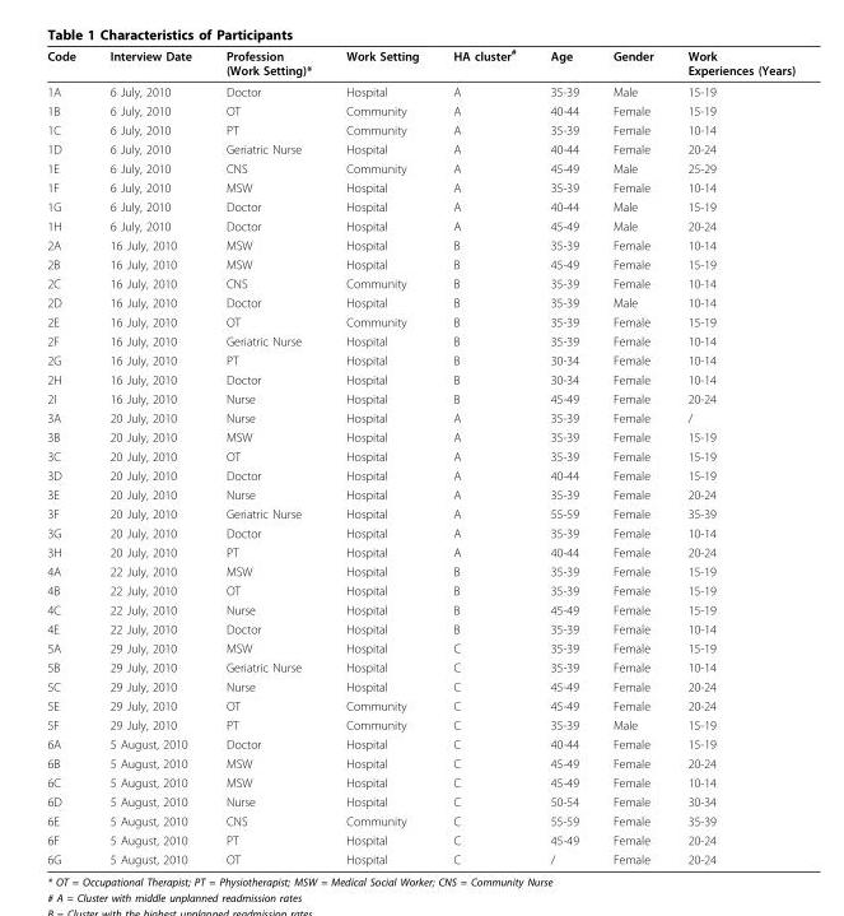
<table><thead><tr><td>Code</td><td>Interview Date</td><td>Profession (Work Setting)*</td><td>Work Setting</td><td>HA cluster<sup>#</sup></td><td>Age</td><td>Gender</td><td>Work Experiences (Years)</td></tr></thead><tbody><tr><td>1A</td><td>6 July, 2010</td><td>Doctor</td><td>Hospital</td><td>A</td><td>35-39</td><td>Male</td><td>15-19</td></tr><tr><td>1B</td><td>6 July, 2010</td><td>OT</td><td>Community</td><td>A</td><td>40-44</td><td>Female</td><td>15-19</td></tr><tr><td>1C</td><td>6 July, 2010</td><td>PT</td><td>Community</td><td>A</td><td>35-39</td><td>Female</td><td>10-14</td></tr><tr><td>1D</td><td>6 July, 2010</td><td>Geriatric Nurse</td><td>Hospital</td><td>A</td><td>40-44</td><td>Female</td><td>20-24</td></tr><tr><td>1E</td><td>6 July, 2010</td><td>CNS</td><td>Community</td><td>A</td><td>45-49</td><td>Male</td><td>25-29</td></tr><tr><td>1F</td><td>6 July, 2010</td><td>MSW</td><td>Hospital</td><td>A</td><td>35-39</td><td>Female</td><td>10-14</td></tr><tr><td>1G</td><td>6 July, 2010</td><td>Doctor</td><td>Hospital</td><td>A</td><td>40-44</td><td>Male</td><td>15-19</td></tr><tr><td>1H</td><td>6 July, 2010</td><td>Doctor</td><td>Hospital</td><td>A</td><td>45-49</td><td>Male</td><td>20-24</td></tr><tr><td>2A</td><td>16 July, 2010</td><td>MSW</td><td>Hospital</td><td>B</td><td>35-39</td><td>Female</td><td>10-14</td></tr><tr><td>2B</td><td>16 July, 2010</td><td>MSW</td><td>Hospital</td><td>B</td><td>45-49</td><td>Female</td><td>15-19</td></tr><tr><td>2C</td><td>16 July, 2010</td><td>CNS</td><td>Community</td><td>B</td><td>35-39</td><td>Female</td><td>10-14</td></tr><tr><td>2D</td><td>16 July, 2010</td><td>Doctor</td><td>Hospital</td><td>B</td><td>35-39</td><td>Male</td><td>10-14</td></tr><tr><td>2E</td><td>16 July, 2010</td><td>OT</td><td>Community</td><td>B</td><td>35-39</td><td>Female</td><td>15-19</td></tr><tr><td>2F</td><td>16 July, 2010</td><td>Geriatric Nurse</td><td>Hospital</td><td>B</td><td>35-39</td><td>Female</td><td>10-14</td></tr><tr><td>2G</td><td>16 July, 2010</td><td>PT</td><td>Hospital</td><td>B</td><td>30-34</td><td>Female</td><td>10-14</td></tr><tr><td>2H</td><td>16 July, 2010</td><td>Doctor</td><td>Hospital</td><td>B</td><td>30-34</td><td>Female</td><td>10-14</td></tr><tr><td>2I</td><td>16 July, 2010</td><td>Nurse</td><td>Hospital</td><td>B</td><td>45-49</td><td>Female</td><td>20-24</td></tr><tr><td>3A</td><td>20 July, 2010</td><td>Nurse</td><td>Hospital</td><td>A</td><td>35-39</td><td>Female</td><td>/</td></tr><tr><td>3B</td><td>20 July, 2010</td><td>MSW</td><td>Hospital</td><td>A</td><td>35-39</td><td>Female</td><td>15-19</td></tr><tr><td>3C</td><td>20 July, 2010</td><td>OT</td><td>Hospital</td><td>A</td><td>35-39</td><td>Female</td><td>15-19</td></tr><tr><td>3D</td><td>20 July, 2010</td><td>Doctor</td><td>Hospital</td><td>A</td><td>40-44</td><td>Female</td><td>15-19</td></tr><tr><td>3E</td><td>20 July, 2010</td><td>Nurse</td><td>Hospital</td><td>A</td><td>35-39</td><td>Female</td><td>20-24</td></tr><tr><td>3F</td><td>20 July, 2010</td><td>Geriatric Nurse</td><td>Hospital</td><td>A</td><td>55-59</td><td>Female</td><td>35-39</td></tr><tr><td>3G</td><td>20 July, 2010</td><td>Doctor</td><td>Hospital</td><td>A</td><td>35-39</td><td>Female</td><td>10-14</td></tr><tr><td>3H</td><td>20 July, 2010</td><td>PT</td><td>Hospital</td><td>A</td><td>40-44</td><td>Female</td><td>20-24</td></tr><tr><td>4A</td><td>22 July, 2010</td><td>MSW</td><td>Hospital</td><td>B</td><td>35-39</td><td>Female</td><td>15-19</td></tr><tr><td>4B</td><td>22 July, 2010</td><td>OT</td><td>Hospital</td><td>B</td><td>35-39</td><td>Female</td><td>15-19</td></tr><tr><td>4C</td><td>22 July, 2010</td><td>Nurse</td><td>Hospital</td><td>B</td><td>45-49</td><td>Female</td><td>15-19</td></tr><tr><td>4E</td><td>22 July, 2010</td><td>Doctor</td><td>Hospital</td><td>B</td><td>35-39</td><td>Female</td><td>10-14</td></tr><tr><td>5A</td><td>29 July, 2010</td><td>MSW</td><td>Hospital</td><td>C</td><td>35-39</td><td>Female</td><td>15-19</td></tr><tr><td>5B</td><td>29 July, 2010</td><td>Geriatric Nurse</td><td>Hospital</td><td>C</td><td>35-39</td><td>Female</td><td>10-14</td></tr><tr><td>5C</td><td>29 July, 2010</td><td>Nurse</td><td>Hospital</td><td>C</td><td>45-49</td><td>Female</td><td>20-24</td></tr><tr><td>5E</td><td>29 July, 2010</td><td>OT</td><td>Community</td><td>C</td><td>45-49</td><td>Female</td><td>20-24</td></tr><tr><td>5F</td><td>29 July, 2010</td><td>PT</td><td>Community</td><td>C</td><td>35-39</td><td>Male</td><td>15-19</td></tr><tr><td>6A</td><td>5 August, 2010</td><td>Doctor</td><td>Hospital</td><td>C</td><td>40-44</td><td>Female</td><td>15-19</td></tr><tr><td>6B</td><td>5 August, 2010</td><td>MSW</td><td>Hospital</td><td>C</td><td>45-49</td><td>Female</td><td>20-24</td></tr><tr><td>6C</td><td>5 August, 2010</td><td>MSW</td><td>Hospital</td><td>C</td><td>45-49</td><td>Female</td><td>10-14</td></tr><tr><td>6D</td><td>5 August, 2010</td><td>Nurse</td><td>Hospital</td><td>C</td><td>50-54</td><td>Female</td><td>30-34</td></tr><tr><td>6E</td><td>5 August, 2010</td><td>CNS</td><td>Community</td><td>C</td><td>55-59</td><td>Female</td><td>35-39</td></tr><tr><td>6F</td><td>5 August, 2010</td><td>PT</td><td>Hospital</td><td>C</td><td>45-49</td><td>Female</td><td>20-24</td></tr><tr><td>6G</td><td>5 August, 2010</td><td>OT</td><td>Hospital</td><td>C</td><td>/</td><td>Female</td><td>20-24</td></tr></tbody></table>